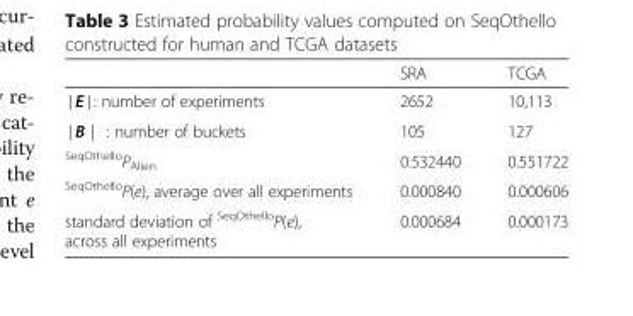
<table><thead><tr><td></td><td>SRA</td><td>TCGA</td></tr></thead><tbody><tr><td>∣E∣: number of experiments</td><td>2652</td><td>10,113</td></tr><tr><td>∣B ∣ : number of buckets</td><td>105</td><td>127</td></tr><tr><td><sup>SeqOthello</sup>P<sub>Alien</sub></td><td>0.532440</td><td>0.551722</td></tr><tr><td><sup>SeqOthello</sup>P(e), average over all experiments</td><td>0.000840</td><td>0.000606</td></tr><tr><td>standard deviation of <sup>SeqOthello</sup>P(e), across all experiments</td><td>0.000684</td><td>0.000173</td></tr></tbody></table>